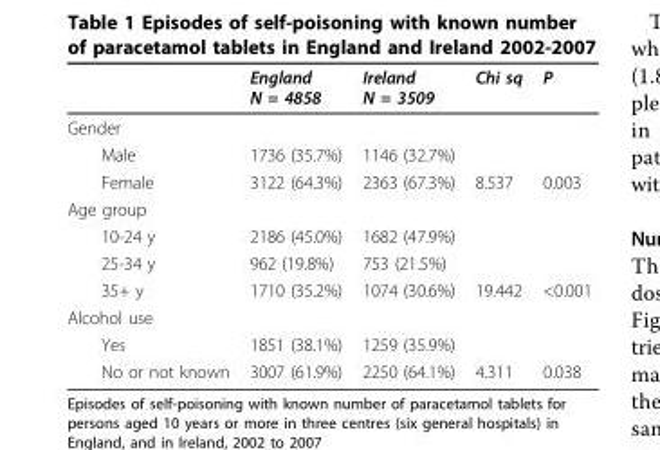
<table><thead><tr><td></td><td>England N = 4858</td><td>Ireland N = 3509</td><td>Chi sq</td><td>P</td></tr></thead><tbody><tr><td colspan="5">Gender</td></tr><tr><td>Male</td><td>1736 (35.7%)</td><td>1146 (32.7%)</td><td></td><td></td></tr><tr><td>Female</td><td>3122 (64.3%)</td><td>2363 (67.3%)</td><td>8.537</td><td>0.003</td></tr><tr><td colspan="5">Age group</td></tr><tr><td>10-24 y</td><td>2186 (45.0%)</td><td>1682 (47.9%)</td><td></td><td></td></tr><tr><td>25-34 y</td><td>962 (19.8%)</td><td>753 (21.5%)</td><td></td><td></td></tr><tr><td>35+ y</td><td>1710 (35.2%)</td><td>1074 (30.6%)</td><td>19.442</td><td>&lt;0.001</td></tr><tr><td colspan="5">Alcohol use</td></tr><tr><td>Yes</td><td>1851 (38.1%)</td><td>1259 (35.9%)</td><td></td><td></td></tr><tr><td>No or not known</td><td>3007 (61.9%)</td><td>2250 (64.1%)</td><td>4.311</td><td>0.038</td></tr></tbody></table>